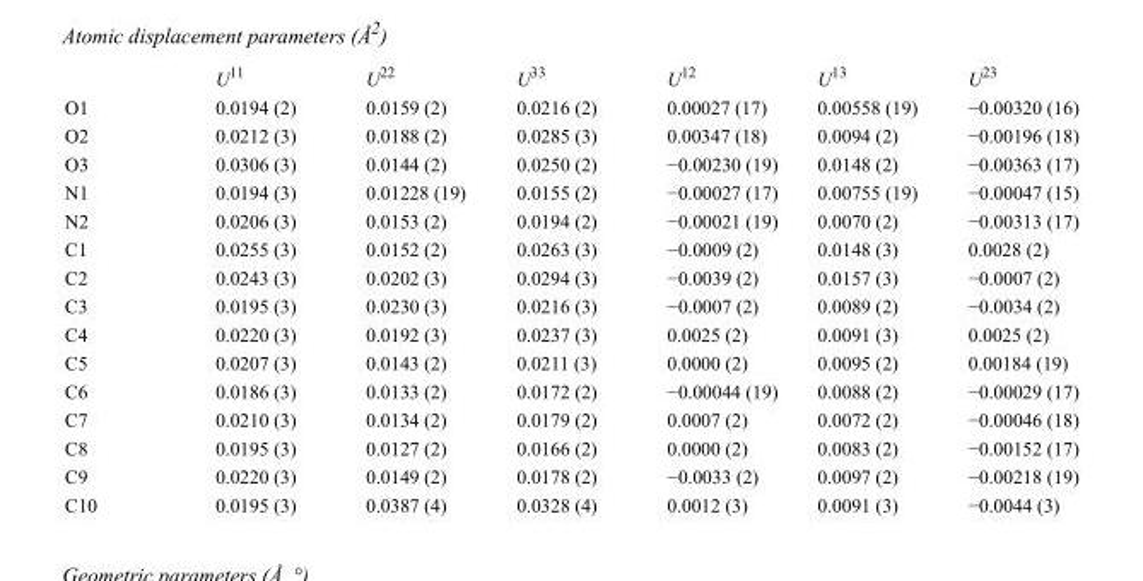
<table><thead><tr><td></td><td>U<sup>11</sup></td><td>U<sup>22</sup></td><td>U<sup>33</sup></td><td>U<sup>12</sup></td><td>U<sup>13</sup></td><td>U<sup>23</sup></td></tr></thead><tbody><tr><td>O1</td><td>0.0194 (2)</td><td>0.0159 (2)</td><td>0.0216 (2)</td><td>0.00027 (17)</td><td>0.00558 (19)</td><td>−0.00320 (16)</td></tr><tr><td>O2</td><td>0.0212 (3)</td><td>0.0188 (2)</td><td>0.0285 (3)</td><td>0.00347 (18)</td><td>0.0094 (2)</td><td>−0.00196 (18)</td></tr><tr><td>O3</td><td>0.0306 (3)</td><td>0.0144 (2)</td><td>0.0250 (2)</td><td>−0.00230 (19)</td><td>0.0148 (2)</td><td>−0.00363 (17)</td></tr><tr><td>N1</td><td>0.0194 (3)</td><td>0.01228 (19)</td><td>0.0155 (2)</td><td>−0.00027 (17)</td><td>0.00755 (19)</td><td>−0.00047 (15)</td></tr><tr><td>N2</td><td>0.0206 (3)</td><td>0.0153 (2)</td><td>0.0194 (2)</td><td>−0.00021 (19)</td><td>0.0070 (2)</td><td>−0.00313 (17)</td></tr><tr><td>C1</td><td>0.0255 (3)</td><td>0.0152 (2)</td><td>0.0263 (3)</td><td>−0.0009 (2)</td><td>0.0148 (3)</td><td>0.0028 (2)</td></tr><tr><td>C2</td><td>0.0243 (3)</td><td>0.0202 (3)</td><td>0.0294 (3)</td><td>−0.0039 (2)</td><td>0.0157 (3)</td><td>−0.0007 (2)</td></tr><tr><td>C3</td><td>0.0195 (3)</td><td>0.0230 (3)</td><td>0.0216 (3)</td><td>−0.0007 (2)</td><td>0.0089 (2)</td><td>−0.0034 (2)</td></tr><tr><td>C4</td><td>0.0220 (3)</td><td>0.0192 (3)</td><td>0.0237 (3)</td><td>0.0025 (2)</td><td>0.0091 (3)</td><td>0.0025 (2)</td></tr><tr><td>C5</td><td>0.0207 (3)</td><td>0.0143 (2)</td><td>0.0211 (3)</td><td>0.0000 (2)</td><td>0.0095 (2)</td><td>0.00184 (19)</td></tr><tr><td>C6</td><td>0.0186 (3)</td><td>0.0133 (2)</td><td>0.0172 (2)</td><td>−0.00044 (19)</td><td>0.0088 (2)</td><td>−0.00029 (17)</td></tr><tr><td>C7</td><td>0.0210 (3)</td><td>0.0134 (2)</td><td>0.0179 (2)</td><td>0.0007 (2)</td><td>0.0072 (2)</td><td>−0.00046 (18)</td></tr><tr><td>C8</td><td>0.0195 (3)</td><td>0.0127 (2)</td><td>0.0166 (2)</td><td>0.0000 (2)</td><td>0.0083 (2)</td><td>−0.00152 (17)</td></tr><tr><td>C9</td><td>0.0220 (3)</td><td>0.0149 (2)</td><td>0.0178 (2)</td><td>−0.0033 (2)</td><td>0.0097 (2)</td><td>−0.00218 (19)</td></tr><tr><td>C10</td><td>0.0195 (3)</td><td>0.0387 (4)</td><td>0.0328 (4)</td><td>0.0012 (3)</td><td>0.0091 (3)</td><td>−0.0044 (3)</td></tr></tbody></table>